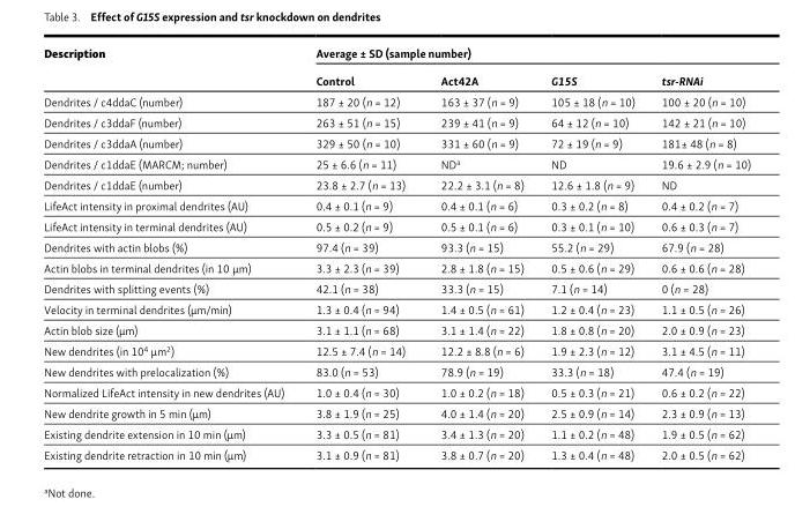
<table><thead><tr><td rowspan="2">Description</td><td colspan="4">Average ± SD (sample number)</td></tr><tr><td>Control</td><td>Act42A</td><td>G15S</td><td>tsr-RNAi</td></tr></thead><tbody><tr><td>Dendrites / c4ddaC (number)</td><td>187 ± 20 (n = 12)</td><td>163 ± 37 (n = 9)</td><td>105 ± 18 (n = 10)</td><td>100 ± 20 (n = 10)</td></tr><tr><td>Dendrites / c3ddaF (number)</td><td>263 ± 51 (n = 15)</td><td>239 ± 41 (n = 9)</td><td>64 ± 12 (n = 10)</td><td>142 ± 21 (n = 10)</td></tr><tr><td>Dendrites / c3ddaA (number)</td><td>329 ± 50 (n = 10)</td><td>331 ± 60 (n = 9)</td><td>72 ± 19 (n = 9)</td><td>181± 48 (n = 8)</td></tr><tr><td>Dendrites / c1ddaE (MAR CM; number)</td><td>25 ± 6.6 (n = 11)</td><td>ND<sup>a</sup></td><td>ND</td><td>19.6 ± 2.9 (n = 10)</td></tr><tr><td>Dendrites / c1ddaE (number)</td><td>23.8 ± 2.7 (n = 13)</td><td>22.2 ± 3.1 (n = 8)</td><td>12.6 ± 1.8 (n = 9)</td><td>ND</td></tr><tr><td>LifeAct intensity in proximal dendrites (AU)</td><td>0.4 ± 0.1 (n = 9)</td><td>0.4 ± 0.1 (n = 6)</td><td>0.3 ± 0.2 (n = 8)</td><td>0.4 ± 0.2 (n = 7)</td></tr><tr><td>LifeAct intensity in terminal dendrites (AU)</td><td>0.5 ± 0.2 (n = 9)</td><td>0.5 ± 0.1 (n = 6)</td><td>0.3 ± 0.1 (n = 10)</td><td>0.6 ± 0.3 (n = 7)</td></tr><tr><td>Dendrites with actin blobs (%)</td><td>97.4 (n = 39)</td><td>93.3 (n = 15)</td><td>55.2 (n = 29)</td><td>67.9 (n = 28)</td></tr><tr><td>Actin blobs in terminal dendrites (in 10 µm)</td><td>3.3 ± 2.3 (n = 39)</td><td>2.8 ± 1.8 (n = 15)</td><td>0.5 ± 0.6 (n = 29)</td><td>0.6 ± 0.6 (n = 28)</td></tr><tr><td>Dendrites with splitting events (%)</td><td>42.1 (n = 38)</td><td>33.3 (n = 15)</td><td>7.1 (n = 14)</td><td>0 (n = 28)</td></tr><tr><td>Velocity in terminal dendrites (μm/min)</td><td>1.3 ± 0.4 (n = 94)</td><td>1.4 ± 0.5 (n = 61)</td><td>1.2 ± 0.4 (n = 23)</td><td>1.1 ± 0.5 (n = 26)</td></tr><tr><td>Actin blob size (μm)</td><td>3.1 ± 1.1 (n = 68)</td><td>3.1 ± 1.4 (n = 22)</td><td>1.8 ± 0.8 (n = 20)</td><td>2.0 ± 0.9 (n = 23)</td></tr><tr><td>New dendrites (in 10<sup>4</sup> μm<sup>2</sup>)</td><td>12.5 ± 7.4 (n = 14)</td><td>12.2 ± 8.8 (n = 6)</td><td>1.9 ± 2.3 (n = 12)</td><td>3.1 ± 4.5 (n = 11)</td></tr><tr><td>New dendrites with prelocalization (%)</td><td>83.0 (n = 53)</td><td>78.9 (n = 19)</td><td>33.3 (n = 18)</td><td>47.4 (n = 19)</td></tr><tr><td>Normalized LifeAct intensity in new dendrites (AU)</td><td>1.0 ± 0.4 (n = 30)</td><td>1.0 ± 0.2 (n = 18)</td><td>0.5 ± 0.3 (n = 21)</td><td>0.6 ± 0.2 (n = 22)</td></tr><tr><td>New dendrite growth in 5 min (μm)</td><td>3.8 ± 1.9 (n = 25)</td><td>4.0 ± 1.4 (n = 20)</td><td>2.5 ± 0.9 (n = 14)</td><td>2.3 ± 0.9 (n = 13)</td></tr><tr><td>Existing dendrite extension in 10 min (μm)</td><td>3.3 ± 0.5 (n = 81)</td><td>3.4 ± 1.3 (n = 20)</td><td>1.1 ± 0.2 (n = 48)</td><td>1.9 ± 0.5 (n = 62)</td></tr><tr><td>Existing dendrite retraction in 10 min (μm)</td><td>3.1 ± 0.9 (n = 81)</td><td>3.8 ± 0.7 (n = 20)</td><td>1.3 ± 0.4 (n = 48)</td><td>2.0 ± 0.5 (n = 62)</td></tr></tbody></table>